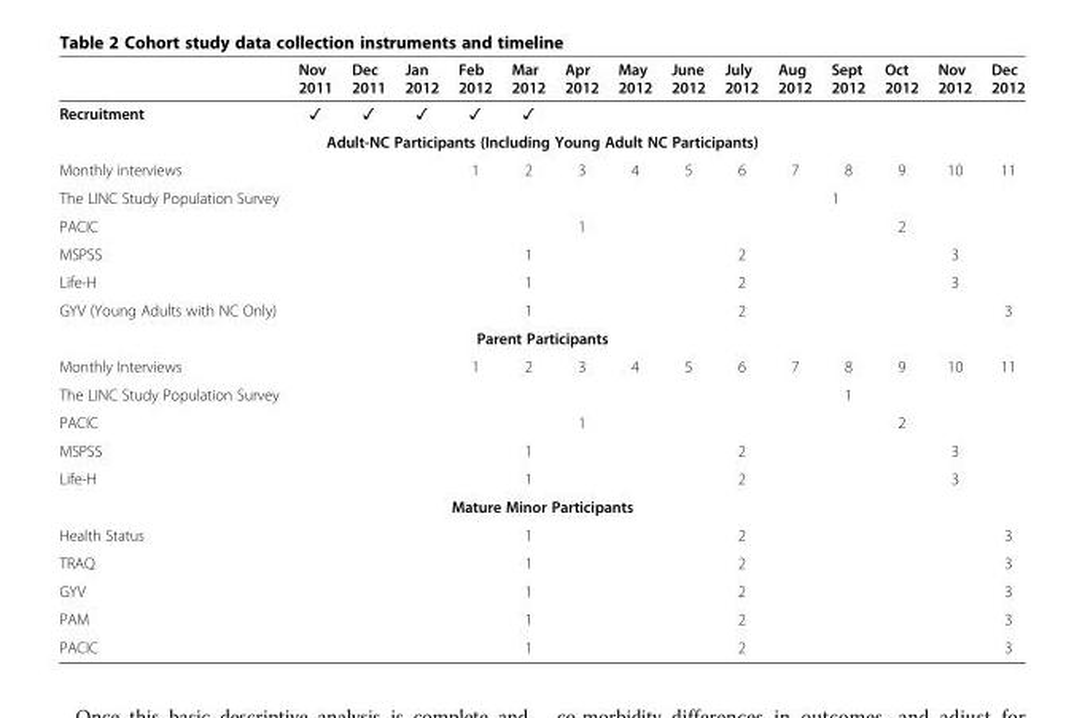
<table><thead><tr><td></td><td>Nov 2011</td><td>Dec 2011</td><td>Jan 2012</td><td>Feb 2012</td><td>Mar 2012</td><td>Apr 2012</td><td>May 2012</td><td>June 2012</td><td>July 2012</td><td>Aug 2012</td><td>Sept 2012</td><td>Oct 2012</td><td>Nov 2012</td><td>Dec 2012</td></tr></thead><tbody><tr><td>Recruitment</td><td>✓</td><td>✓</td><td>✓</td><td>✓</td><td>✓</td><td></td><td></td><td></td><td></td><td></td><td></td><td></td><td></td><td></td></tr><tr><td colspan="15">Adult-NC Participants (Including Young Adult NC Participants)</td></tr><tr><td>Monthly interviews</td><td></td><td></td><td></td><td>1</td><td>2</td><td>3</td><td>4</td><td>5</td><td>6</td><td>7</td><td>8</td><td>9</td><td>10</td><td>11</td></tr><tr><td>The LINC Study Population Survey</td><td></td><td></td><td></td><td></td><td></td><td></td><td></td><td></td><td></td><td></td><td>1</td><td></td><td></td><td></td></tr><tr><td>PACIC</td><td></td><td></td><td></td><td></td><td></td><td>1</td><td></td><td></td><td></td><td></td><td></td><td>2</td><td></td><td></td></tr><tr><td>MSPSS</td><td></td><td></td><td></td><td></td><td>1</td><td></td><td></td><td></td><td>2</td><td></td><td></td><td></td><td>3</td><td></td></tr><tr><td>Life-H</td><td></td><td></td><td></td><td></td><td>1</td><td></td><td></td><td></td><td>2</td><td></td><td></td><td></td><td>3</td><td></td></tr><tr><td>GYV (Young Adults with NC Only)</td><td></td><td></td><td></td><td></td><td>1</td><td></td><td></td><td></td><td>2</td><td></td><td></td><td></td><td></td><td>3</td></tr><tr><td colspan="15">Parent Participants</td></tr><tr><td>Monthly Interviews</td><td></td><td></td><td></td><td>1</td><td>2</td><td>3</td><td>4</td><td>5</td><td>6</td><td>7</td><td>8</td><td>9</td><td>10</td><td>11</td></tr><tr><td>The LINC Study Population Survey</td><td></td><td></td><td></td><td></td><td></td><td></td><td></td><td></td><td></td><td></td><td>1</td><td></td><td></td><td></td></tr><tr><td>PACIC</td><td></td><td></td><td></td><td></td><td></td><td>1</td><td></td><td></td><td></td><td></td><td></td><td>2</td><td></td><td></td></tr><tr><td>MSPSS</td><td></td><td></td><td></td><td></td><td>1</td><td></td><td></td><td></td><td>2</td><td></td><td></td><td></td><td>3</td><td></td></tr><tr><td>Life-H</td><td></td><td></td><td></td><td></td><td>1</td><td></td><td></td><td></td><td>2</td><td></td><td></td><td></td><td>3</td><td></td></tr><tr><td colspan="15">Mature Minor Participants</td></tr><tr><td>Health Status</td><td></td><td></td><td></td><td></td><td>1</td><td></td><td></td><td></td><td>2</td><td></td><td></td><td></td><td></td><td>3</td></tr><tr><td>TRAQ</td><td></td><td></td><td></td><td></td><td>1</td><td></td><td></td><td></td><td>2</td><td></td><td></td><td></td><td></td><td>3</td></tr><tr><td>GYV</td><td></td><td></td><td></td><td></td><td>1</td><td></td><td></td><td></td><td>2</td><td></td><td></td><td></td><td></td><td>3</td></tr><tr><td>PAM</td><td></td><td></td><td></td><td></td><td>1</td><td></td><td></td><td></td><td>2</td><td></td><td></td><td></td><td></td><td>3</td></tr><tr><td>PACIC</td><td></td><td></td><td></td><td></td><td>1</td><td></td><td></td><td></td><td>2</td><td></td><td></td><td></td><td></td><td>3</td></tr></tbody></table>